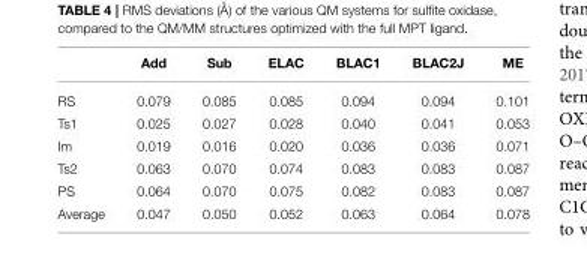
<table><thead><tr><td></td><td>Add</td><td>Sub</td><td>ELAC</td><td>BLAC1</td><td>BLAC2J</td><td>ME</td></tr></thead><tbody><tr><td>RS</td><td>0.079</td><td>0.085</td><td>0.085</td><td>0.094</td><td>0.094</td><td>0.101</td></tr><tr><td>Ts1</td><td>0.025</td><td>0.027</td><td>0.028</td><td>0.040</td><td>0.041</td><td>0.053</td></tr><tr><td>Im</td><td>0.019</td><td>0.016</td><td>0.020</td><td>0.036</td><td>0.036</td><td>0.071</td></tr><tr><td>Ts2</td><td>0.063</td><td>0.070</td><td>0.074</td><td>0.083</td><td>0.083</td><td>0.087</td></tr><tr><td>PS</td><td>0.064</td><td>0.070</td><td>0.075</td><td>0.082</td><td>0.083</td><td>0.087</td></tr><tr><td>Average</td><td>0.047</td><td>0.050</td><td>0.052</td><td>0.063</td><td>0.064</td><td>0.078</td></tr></tbody></table>